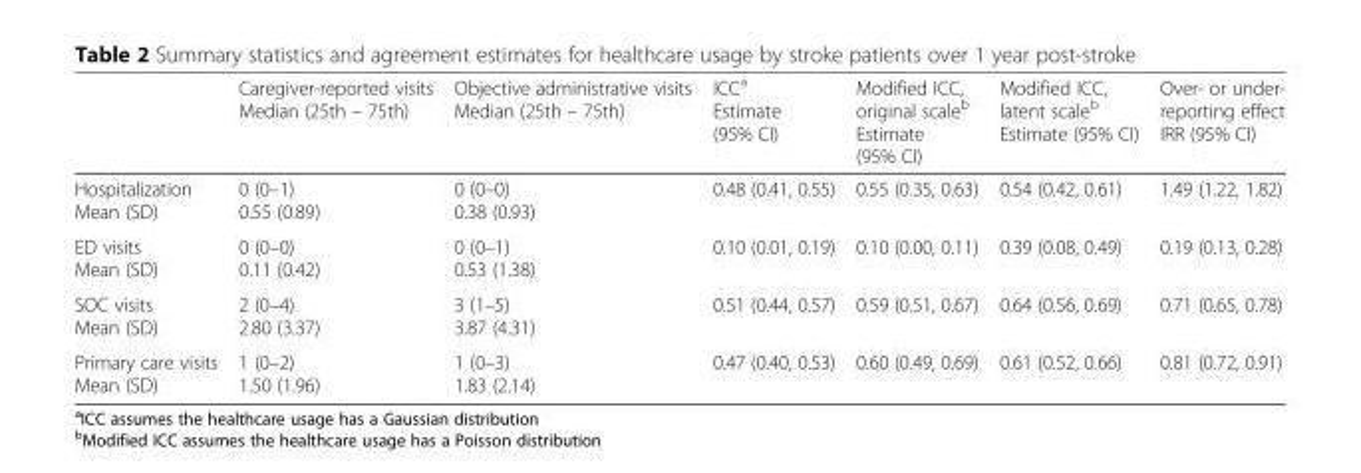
<table><thead><tr><td></td><td>Caregiver-reported visits Median (25th – 75th)</td><td>Objective administrative visits Median (25th – 75th)</td><td>ICC<sup>a</sup> Estimate (95% CI)</td><td>Modified ICC, original scale<sup>b</sup> Estimate (95% CI)</td><td>Modified ICC, latent scale<sup>b</sup> Estimate (95% CI)</td><td>Over- or under- reporting effect IRR (95% CI)</td></tr></thead><tbody><tr><td>Hospitalization Mean (SD)</td><td>0 (0–1) 0.55 (0.89)</td><td>0 (0–0) 0.38 (0.93)</td><td>0.48 (0.41, 0.55)</td><td>0.55 (0.35, 0.63)</td><td>0.54 (0.42, 0.61)</td><td>1.49 (1.22, 1.82)</td></tr><tr><td>ED visits Mean (SD)</td><td>0 (0–0) 0.11 (0.42)</td><td>0 (0–1) 0.53 (1.38)</td><td>0.10 (0.01, 0.19)</td><td>0.10 (0.00, 0.11)</td><td>0.39 (0.08, 0.49)</td><td>0.19 (0.13, 0.28)</td></tr><tr><td>SOC visits Mean (SD)</td><td>2 (0–4) 2.80 (3.37)</td><td>3 (1–5) 3.87 (4.31)</td><td>0.51 (0.44, 0.57)</td><td>0.59 (0.51, 0.67)</td><td>0.64 (0.56, 0.69)</td><td>0.71 (0.65, 0.78)</td></tr><tr><td>Primary care visits Mean (SD)</td><td>1 (0–2) 1.50 (1.96)</td><td>1 (0–3) 1.83 (2.14)</td><td>0.47 (0.40, 0.53)</td><td>0.60 (0.49, 0.69)</td><td>0.61 (0.52, 0.66)</td><td>0.81 (0.72, 0.91)</td></tr></tbody></table>